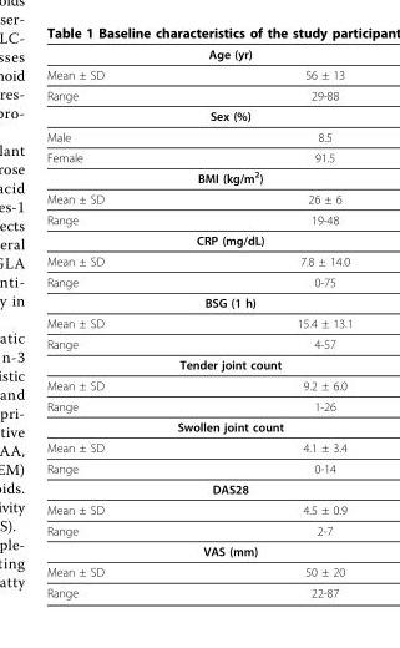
<table><thead><tr><td colspan="2">Age (yr)</td></tr><tr><td>Mean ± SD</td><td>56 ± 13</td></tr></thead><tbody><tr><td>Range</td><td>29-88</td></tr><tr><td colspan="2">Sex (%)</td></tr><tr><td>Male</td><td>8.5</td></tr><tr><td>Female</td><td>91.5</td></tr><tr><td colspan="2">BMI (kg/m<sup>2</sup>)</td></tr><tr><td>Mean ± SD</td><td>26 ± 6</td></tr><tr><td>Range</td><td>19-48</td></tr><tr><td colspan="2">CRP (mg/dL)</td></tr><tr><td>Mean ± SD</td><td>7.8 ± 14.0</td></tr><tr><td>Range</td><td>0-75</td></tr><tr><td colspan="2">BSG (1 h)</td></tr><tr><td>Mean ± SD</td><td>15.4 ± 13.1</td></tr><tr><td>Range</td><td>4-57</td></tr><tr><td colspan="2">Tender joint count</td></tr><tr><td>Mean ± SD</td><td>9.2 ± 6.0</td></tr><tr><td>Range</td><td>1-26</td></tr><tr><td colspan="2">Swollen joint count</td></tr><tr><td>Mean ± SD</td><td>4.1 ± 3.4</td></tr><tr><td>Range</td><td>0-14</td></tr><tr><td colspan="2">DAS28</td></tr><tr><td>Mean ± SD</td><td>4.5 ± 0.9</td></tr><tr><td>Range</td><td>2-7</td></tr><tr><td colspan="2">VAS (mm)</td></tr><tr><td>Mean ± SD</td><td>50 ± 20</td></tr><tr><td>Range</td><td>22-87</td></tr></tbody></table>